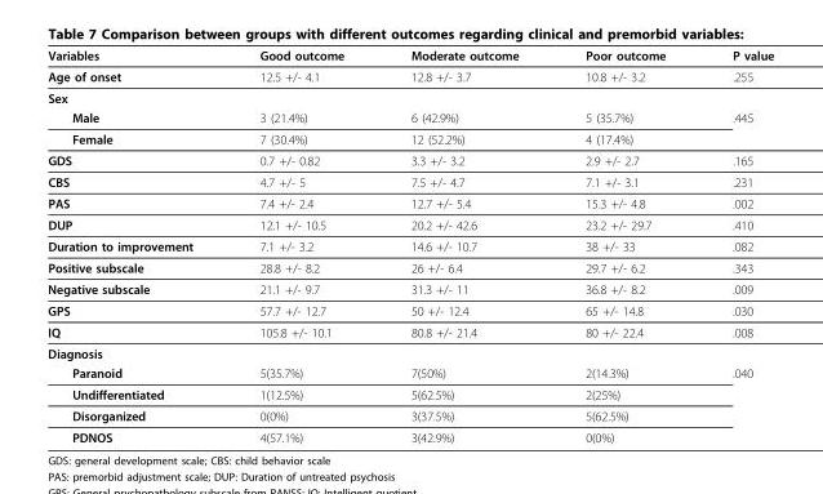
<table><thead><tr><td>Variables</td><td>Good outcome</td><td>Moderate outcome</td><td>Poor outcome</td><td>P value</td></tr></thead><tbody><tr><td>Age of onset</td><td>12.5 +/- 4.1</td><td>12.8 +/- 3.7</td><td>10.8 +/- 3.2</td><td>.255</td></tr><tr><td colspan="5">Sex</td></tr><tr><td>Male</td><td>3 (21.4%)</td><td>6 (42.9%)</td><td>5 (35.7%)</td><td>.445</td></tr><tr><td>Female</td><td>7 (30.4%)</td><td>12 (52.2%)</td><td>4 (17.4%)</td><td></td></tr><tr><td>GDS</td><td>0.7 +/- 0.82</td><td>3.3 +/- 3.2</td><td>2.9 +/- 2.7</td><td>.165</td></tr><tr><td>CBS</td><td>4.7 +/- 5</td><td>7.5 +/- 4.7</td><td>7.1 +/- 3.1</td><td>.231</td></tr><tr><td>PAS</td><td>7.4 +/- 2.4</td><td>12.7 +/- 5.4</td><td>15.3 +/- 4.8</td><td>.002</td></tr><tr><td>DUP</td><td>12.1 +/- 10.5</td><td>20.2 +/- 42.6</td><td>23.2 +/- 29.7</td><td>.410</td></tr><tr><td>Duration to improvement</td><td>7.1 +/- 3.2</td><td>14.6 +/- 10.7</td><td>38 +/- 33</td><td>.082</td></tr><tr><td>Positive subscale</td><td>28.8 +/- 8.2</td><td>26 +/- 6.4</td><td>29.7 +/- 6.2</td><td>.343</td></tr><tr><td>Negative subscale</td><td>21.1 +/- 9.7</td><td>31.3 +/- 11</td><td>36.8 +/- 8.2</td><td>.009</td></tr><tr><td>GPS</td><td>57.7 +/- 12.7</td><td>50 +/- 12.4</td><td>65 +/- 14.8</td><td>.030</td></tr><tr><td>IQ</td><td>105.8 +/- 10.1</td><td>80.8 +/- 21.4</td><td>80 +/- 22.4</td><td>.008</td></tr><tr><td colspan="5">Diagnosis</td></tr><tr><td>Paranoid</td><td>5(35.7%)</td><td>7(50%)</td><td>2(14.3%)</td><td>.040</td></tr><tr><td>Undifferentiated</td><td>1(12.5%)</td><td>5(62.5%)</td><td>2(25%)</td><td></td></tr><tr><td>Disorganized</td><td>0(0%)</td><td>3(37.5%)</td><td>5(62.5%)</td><td></td></tr><tr><td>PDNOS</td><td>4(57.1%)</td><td>3(42.9%)</td><td>0(0%)</td><td></td></tr></tbody></table>